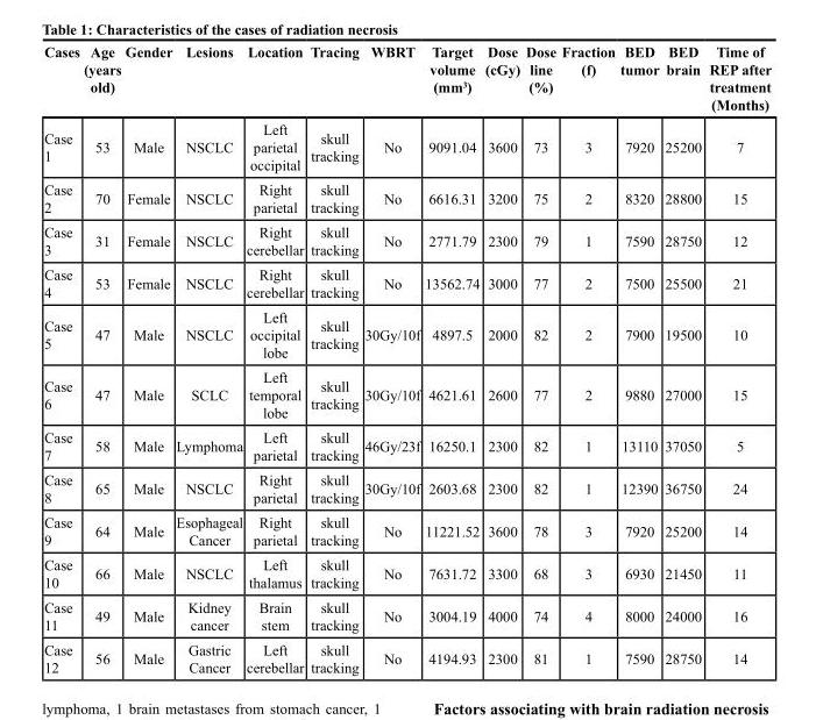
<table><thead><tr><td>Cases</td><td>Age (years old)</td><td>Gender</td><td>Lesions</td><td>Location</td><td>Tracing</td><td>WBRT</td><td>Target volume (mm<sup>3</sup>)</td><td>Dose (cGy)</td><td>Dose line (%)</td><td>Fraction (f)</td><td>BED tumor</td><td>BED brain</td><td>Time of REP after treatment (Months)</td></tr></thead><tbody><tr><td>Case 1</td><td>53</td><td>Male</td><td>NSCLC</td><td>Left parietal occipital</td><td>skull tracking</td><td>No</td><td>9091.04</td><td>3600</td><td>73</td><td>3</td><td>7920</td><td>25200</td><td>7</td></tr><tr><td>Case 2</td><td>70</td><td>Female</td><td>NSCLC</td><td>Right parietal</td><td>skull tracking</td><td>No</td><td>6616.31</td><td>3200</td><td>75</td><td>2</td><td>8320</td><td>28800</td><td>15</td></tr><tr><td>Case 3</td><td>31</td><td>Female</td><td>NSCLC</td><td>Right cerebellar</td><td>skull tracking</td><td>No</td><td>2771.79</td><td>2300</td><td>79</td><td>1</td><td>7590</td><td>28750</td><td>12</td></tr><tr><td>Case 4</td><td>53</td><td>Female</td><td>NSCLC</td><td>Right cerebellar</td><td>skull tracking</td><td>No</td><td>13562.74</td><td>3000</td><td>77</td><td>2</td><td>7500</td><td>25500</td><td>21</td></tr><tr><td>Case 5</td><td>47</td><td>Male</td><td>NSCLC</td><td>Left occipital lobe</td><td>skull tracking</td><td>30Gy/10f</td><td>4897.5</td><td>2000</td><td>82</td><td>2</td><td>7900</td><td>19500</td><td>10</td></tr><tr><td>Case 6</td><td>47</td><td>Male</td><td>SCLC</td><td>Left temporal lobe</td><td>skull tracking</td><td>30Gy/10f</td><td>4621.61</td><td>2600</td><td>77</td><td>2</td><td>9880</td><td>27000</td><td>15</td></tr><tr><td>Case 7</td><td>58</td><td>Male</td><td>Lymphoma</td><td>Left parietal</td><td>skull tracking</td><td>46Gy/23f</td><td>16250.1</td><td>2300</td><td>82</td><td>1</td><td>13110</td><td>37050</td><td>5</td></tr><tr><td>Case 8</td><td>65</td><td>Male</td><td>NSCLC</td><td>Right parietal</td><td>skull tracking</td><td>30Gy/10f</td><td>2603.68</td><td>2300</td><td>82</td><td>1</td><td>12390</td><td>36750</td><td>24</td></tr><tr><td>Case 9</td><td>64</td><td>Male</td><td>Esophageal Cancer</td><td>Right parietal</td><td>skull tracking</td><td>No</td><td>11221.52</td><td>3600</td><td>78</td><td>3</td><td>7920</td><td>25200</td><td>14</td></tr><tr><td>Case 10</td><td>66</td><td>Male</td><td>NSCLC</td><td>Left thalamus</td><td>skull tracking</td><td>No</td><td>7631.72</td><td>3300</td><td>68</td><td>3</td><td>6930</td><td>21450</td><td>11</td></tr><tr><td>Case 11</td><td>49</td><td>Male</td><td>Kidney cancer</td><td>Brain stem</td><td>skull tracking</td><td>No</td><td>3004.19</td><td>4000</td><td>74</td><td>4</td><td>8000</td><td>24000</td><td>16</td></tr><tr><td>Case 12</td><td>56</td><td>Male</td><td>Gastric Cancer</td><td>Left cerebellar</td><td>skull tracking</td><td>No</td><td>4194.93</td><td>2300</td><td>81</td><td>1</td><td>7590</td><td>28750</td><td>14</td></tr></tbody></table>